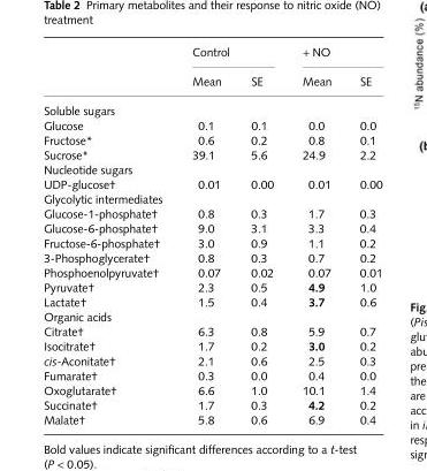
<table><thead><tr><td rowspan="2"></td><td colspan="2">Control</td><td colspan="2">+ NO</td></tr><tr><td>Mean</td><td>SE</td><td>Mean</td><td>SE</td></tr></thead><tbody><tr><td colspan="5">Soluble sugars</td></tr><tr><td>Glucose</td><td>0.1</td><td>0.1</td><td>0.0</td><td>0.0</td></tr><tr><td>Fructose*</td><td>0.6</td><td>0.2</td><td>0.8</td><td>0.1</td></tr><tr><td>Sucrose*</td><td>39.1</td><td>5.6</td><td>24.9</td><td>2.2</td></tr><tr><td colspan="5">Nucleotide sugars</td></tr><tr><td>UDP-glucose†</td><td>0.01</td><td>0.00</td><td>0.01</td><td>0.00</td></tr><tr><td colspan="5">Glycolytic intermediates</td></tr><tr><td>Glucose-1-phosphate†</td><td>0.8</td><td>0.3</td><td>1.7</td><td>0.3</td></tr><tr><td>Glucose-6-phosphate†</td><td>9.0</td><td>3.1</td><td>3.3</td><td>0.4</td></tr><tr><td>Fructose-6-phosphate†</td><td>3.0</td><td>0.9</td><td>1.1</td><td>0.2</td></tr><tr><td>3-Phosphoglycerate†</td><td>0.8</td><td>0.3</td><td>0.7</td><td>0.2</td></tr><tr><td>Phosphoenolpyruvate†</td><td>0.07</td><td>0.02</td><td>0.07</td><td>0.01</td></tr><tr><td>Pyruvate†</td><td>2.3</td><td>0.5</td><td>4.9</td><td>1.0</td></tr><tr><td>Lactate†</td><td>1.5</td><td>0.4</td><td>3.7</td><td>0.6</td></tr><tr><td colspan="5">Organic acids</td></tr><tr><td>Citrate†</td><td>6.3</td><td>0.8</td><td>5.9</td><td>0.7</td></tr><tr><td>Isocitrate†</td><td>1.7</td><td>0.2</td><td>3.0</td><td>0.2</td></tr><tr><td>cis-Aconitate†</td><td>2.1</td><td>0.6</td><td>2.5</td><td>0.3</td></tr><tr><td>Fumarate†</td><td>0.3</td><td>0.0</td><td>0.4</td><td>0.0</td></tr><tr><td>Oxoglutarate†</td><td>6.6</td><td>1.0</td><td>10.1</td><td>1.4</td></tr><tr><td>Succinate†</td><td>1.7</td><td>0.3</td><td>4.2</td><td>0.2</td></tr><tr><td>Malate†</td><td>5.8</td><td>0.6</td><td>6.9</td><td>0.4</td></tr></tbody></table>